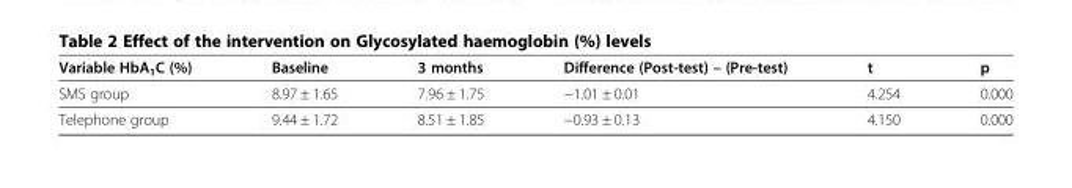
<table><thead><tr><td>Variable HbA1C (%)</td><td>Baseline</td><td>3 months</td><td>Difference (Post-test) – (Pre-test)</td><td>t</td><td>p</td></tr></thead><tbody><tr><td>SMS group</td><td>8.97 ± 1.65</td><td>7.96 ± 1.75</td><td>−1.01 ± 0.01</td><td>4.254</td><td>0.000</td></tr><tr><td>Telephone group</td><td>9.44 ± 1.72</td><td>8.51 ± 1.85</td><td>−0.93 ± 0.13</td><td>4.150</td><td>0.000</td></tr></tbody></table>